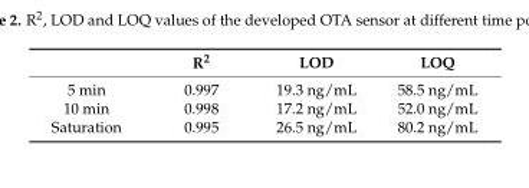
<table><thead><tr><td></td><td>R<sup>2</sup></td><td>LOD</td><td>LOQ</td></tr></thead><tbody><tr><td>5 min</td><td>0.997</td><td>19.3 ng/mL</td><td>58.5 ng/mL</td></tr><tr><td>10 min</td><td>0.998</td><td>17.2 ng/mL</td><td>52.0 ng/mL</td></tr><tr><td>Saturation</td><td>0.995</td><td>26.5 ng/mL</td><td>80.2 ng/mL</td></tr></tbody></table>